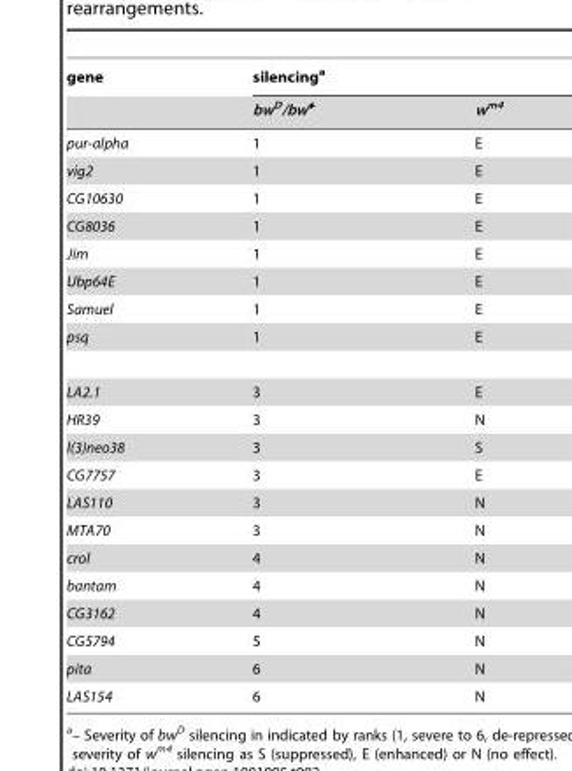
<table><thead><tr><td rowspan="2">gene</td><td colspan="2">silencing<sup>a</sup></td></tr><tr><td>bw<sup>D</sup>/bw<sup>+</sup></td><td>w<sup>m4</sup></td></tr></thead><tbody><tr><td>pur-alpha</td><td>1</td><td>E</td></tr><tr><td>vig2</td><td>1</td><td>E</td></tr><tr><td>CG10630</td><td>1</td><td>E</td></tr><tr><td>CG8036</td><td>1</td><td>E</td></tr><tr><td>Jim</td><td>1</td><td>E</td></tr><tr><td>Ubp64E</td><td>1</td><td>E</td></tr><tr><td>Samuel</td><td>1</td><td>E</td></tr><tr><td>psq</td><td>1</td><td>E</td></tr><tr><td>LA2.1</td><td>3</td><td>E</td></tr><tr><td>HR39</td><td>3</td><td>N</td></tr><tr><td>l(3)neo38</td><td>3</td><td>S</td></tr><tr><td>CG7757</td><td>3</td><td>E</td></tr><tr><td>LAS110</td><td>3</td><td>N</td></tr><tr><td>MTA70</td><td>3</td><td>N</td></tr><tr><td>crol</td><td>4</td><td>N</td></tr><tr><td>bantam</td><td>4</td><td>N</td></tr><tr><td>CG3162</td><td>4</td><td>N</td></tr><tr><td>CG5794</td><td>5</td><td>N</td></tr><tr><td>pita</td><td>6</td><td>N</td></tr><tr><td>LAS154</td><td>6</td><td>N</td></tr></tbody></table>